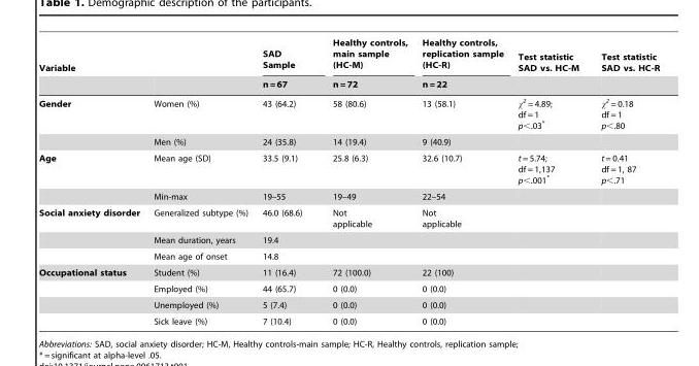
<table><thead><tr><td colspan="2">Variable</td><td rowspan="2">SAD Sample n = 67</td><td rowspan="2">Healthy controls, main sample (HC-M) n = 72</td><td rowspan="2">Healthy controls, replication sample (HC-R) n = 22</td><td rowspan="2">Test statistic SAD vs. HC-M</td><td rowspan="2">Test statistic SAD vs. HC-R</td></tr><tr><td></td><td></td></tr></thead><tbody><tr><td rowspan="2">Gender</td><td>Women (%)</td><td>43 (64.2)</td><td>58 (80.6)</td><td>13 (58.1)</td><td>χ<sup>2</sup> = 4.89; df = 1 p&lt;.03*</td><td>χ<sup>2</sup> = 0.18 df = 1 p&lt;.80</td></tr><tr><td>Men (%)</td><td>24 (35.8)</td><td>14 (19.4)</td><td>9 (40.9)</td><td></td><td></td></tr><tr><td rowspan="2">Age</td><td>Mean age (SD)</td><td>33.5 (9.1)</td><td>25.8 (6.3)</td><td>32.6 (10.7)</td><td>t = 5.74; df = 1,137 p&lt;.001*</td><td>t = 0.41 df = 1, 87 p&lt;.71</td></tr><tr><td>Min-max</td><td>19–55</td><td>19–49</td><td>22–54</td><td></td><td></td></tr><tr><td rowspan="3">Social anxiety disorder</td><td>Generalized subtype (%)</td><td>46.0 (68.6)</td><td>Not applicable</td><td>Not applicable</td><td></td><td></td></tr><tr><td>Mean duration, years</td><td>19.4</td><td></td><td></td><td></td><td></td></tr><tr><td>Mean age of onset</td><td>14.8</td><td></td><td></td><td></td><td></td></tr><tr><td rowspan="4">Occupational status</td><td>Student (%)</td><td>11 (16.4)</td><td>72 (100.0)</td><td>22 (100)</td><td></td><td></td></tr><tr><td>Employed (%)</td><td>44 (65.7)</td><td>0 (0.0)</td><td>0 (0.0)</td><td></td><td></td></tr><tr><td>Unemployed (%)</td><td>5 (7.4)</td><td>0 (0.0)</td><td>0 (0.0)</td><td></td><td></td></tr><tr><td>Sick leave (%)</td><td>7 (10.4)</td><td>0 (0.0)</td><td>0 (0.0)</td><td></td><td></td></tr></tbody></table>